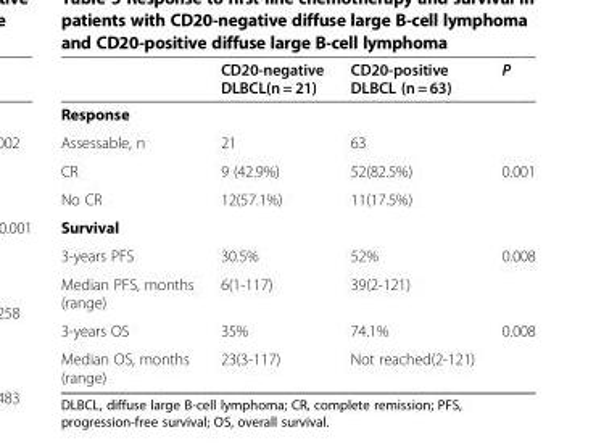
<table><thead><tr><td></td><td>CD20-negative DLBCL(n = 21)</td><td>CD20-positive DLBCL (n = 63)</td><td>P</td></tr></thead><tbody><tr><td colspan="4">Response</td></tr><tr><td>Assessable, n</td><td>21</td><td>63</td><td></td></tr><tr><td>CR</td><td>9 (42.9%)</td><td>52(82.5%)</td><td>0.001</td></tr><tr><td>No CR</td><td>12(57.1%)</td><td>11(17.5%)</td><td></td></tr><tr><td colspan="4">Survival</td></tr><tr><td>3-years PFS</td><td>30.5%</td><td>52%</td><td>0.008</td></tr><tr><td>Median PFS, months (range)</td><td>6(1-117)</td><td>39(2-121)</td><td></td></tr><tr><td>3-years OS</td><td>35%</td><td>74.1%</td><td>0.008</td></tr><tr><td>Median OS, months (range)</td><td>23(3-117)</td><td>Not reached(2-121)</td><td></td></tr></tbody></table>